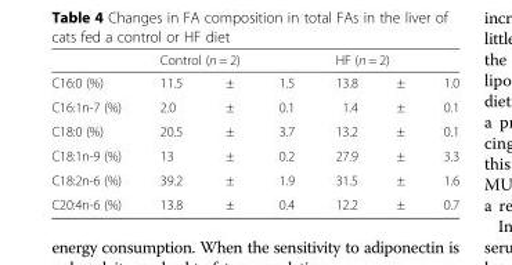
<table><thead><tr><td rowspan="2">C16:0 (%)</td><td colspan="3">Control (n = 2)</td><td colspan="3">HF (n = 2)</td></tr><tr><td>11.5</td><td>±</td><td>1.5</td><td>13.8</td><td>±</td><td>1.0</td></tr></thead><tbody><tr><td>C16:1n-7 (%)</td><td>2.0</td><td>±</td><td>0.1</td><td>1.4</td><td>±</td><td>0.1</td></tr><tr><td>C18:0 (%)</td><td>20.5</td><td>±</td><td>3.7</td><td>13.2</td><td>±</td><td>0.1</td></tr><tr><td>C18:1n-9 (%)</td><td>13</td><td>±</td><td>0.2</td><td>27.9</td><td>±</td><td>3.3</td></tr><tr><td>C18:2n-6 (%)</td><td>39.2</td><td>±</td><td>1.9</td><td>31.5</td><td>±</td><td>1.6</td></tr><tr><td>C20:4n-6 (%)</td><td>13.8</td><td>±</td><td>0.4</td><td>12.2</td><td>±</td><td>0.7</td></tr></tbody></table>